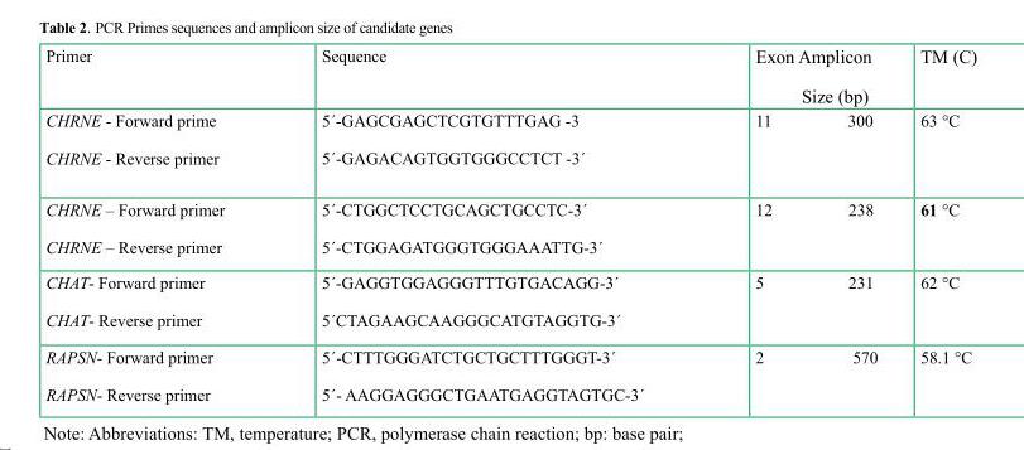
<table><thead><tr><td>Primer</td><td>Sequence</td><td>Exon Amplicon Size (bp)</td><td>TM (C)</td></tr></thead><tbody><tr><td>CHRNE - Forward prime CHRNE - Reverse primer</td><td>5´-GAGCGAGCTCGTGTTTGAG -3 5´-GAGACAGTGGTGGGCCTCT -3´</td><td>11 300</td><td>63 °C</td></tr><tr><td>CHRNE – Forward primer CHRNE – Reverse primer</td><td>5´-CTGGCTCCTGCAGCTGCCTC-3´ 5´-CTGGAGATGGGTGGGAAATTG-3´</td><td>12 238</td><td>61 °C</td></tr><tr><td>CHAT- Forward primer CHAT- Reverse primer</td><td>5´-GAGGTGGAGGGTTTGTGACAGG-3´ 5´CTAGAAGCAAGGGCATGTAGGTG-3´</td><td>5 231</td><td>62 °C</td></tr><tr><td>RAPSN- Forward primer RAPSN- Reverse primer</td><td>5´-CTTTGGGATCTGCTGCTTTGGGT-3´ 5´- AAGGAGGGCTGAATGAGGTAGTGC-3´</td><td>2 570</td><td>58.1 °C</td></tr></tbody></table>